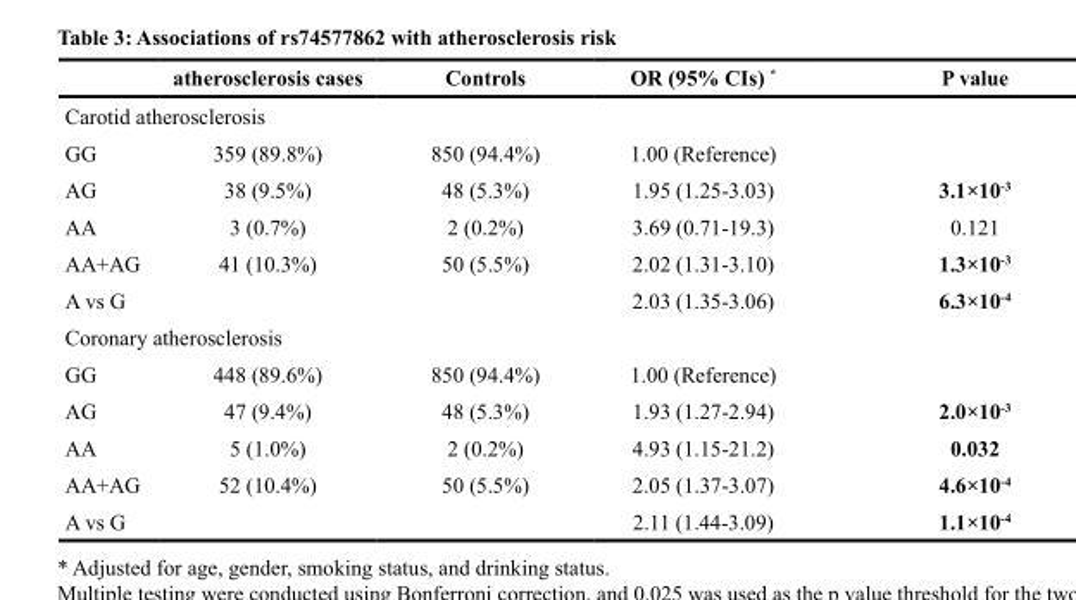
<table><thead><tr><td></td><td>atherosclerosis cases</td><td>Controls</td><td>OR (95% CIs) *</td><td>P value</td></tr></thead><tbody><tr><td colspan="5">Carotid atherosclerosis</td></tr><tr><td>GG</td><td>359 (89.8%)</td><td>850 (94.4%)</td><td>1.00 (Reference)</td><td></td></tr><tr><td>AG</td><td>38 (9.5%)</td><td>48 (5.3%)</td><td>1.95 (1.25-3.03)</td><td>3.1×10<sup>-3</sup></td></tr><tr><td>AA</td><td>3 (0.7%)</td><td>2 (0.2%)</td><td>3.69 (0.71-19.3)</td><td>0.121</td></tr><tr><td>AA+AG</td><td>41 (10.3%)</td><td>50 (5.5%)</td><td>2.02 (1.31-3.10)</td><td>1.3×10<sup>-3</sup></td></tr><tr><td>A vs G</td><td></td><td></td><td>2.03 (1.35-3.06)</td><td>6.3×10<sup>-4</sup></td></tr><tr><td colspan="5">Coronary atherosclerosis</td></tr><tr><td>GG</td><td>448 (89.6%)</td><td>850 (94.4%)</td><td>1.00 (Reference)</td><td></td></tr><tr><td>AG</td><td>47 (9.4%)</td><td>48 (5.3%)</td><td>1.93 (1.27-2.94)</td><td>2.0×10<sup>-3</sup></td></tr><tr><td>AA</td><td>5 (1.0%)</td><td>2 (0.2%)</td><td>4.93 (1.15-21.2)</td><td>0.032</td></tr><tr><td>AA+AG</td><td>52 (10.4%)</td><td>50 (5.5%)</td><td>2.05 (1.37-3.07)</td><td>4.6×10<sup>-4</sup></td></tr><tr><td>A vs G</td><td></td><td></td><td>2.11 (1.44-3.09)</td><td>1.1×10<sup>-4</sup></td></tr></tbody></table>